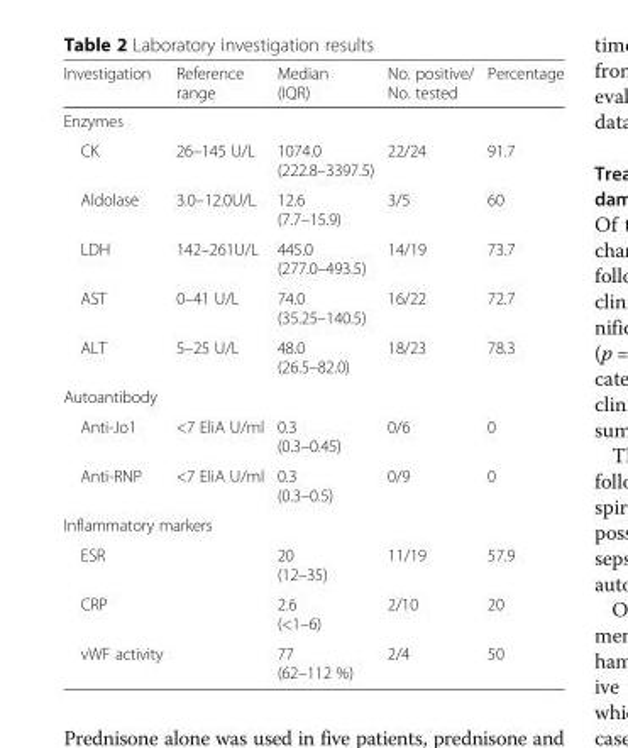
<table><thead><tr><td>Investigation</td><td>Reference range</td><td>Median (IQR)</td><td>No. positive/ No. tested</td><td>Percentage</td></tr></thead><tbody><tr><td colspan="5">Enzymes</td></tr><tr><td>CK</td><td>26–145 U/L</td><td>1074.0 (222.8–3397.5)</td><td>22/24</td><td>91.7</td></tr><tr><td>Aldolase</td><td>3.0–12.0U/L</td><td>12.6 (7.7–15.9)</td><td>3/5</td><td>60</td></tr><tr><td>LDH</td><td>142–261U/L</td><td>445.0 (277.0–493.5)</td><td>14/19</td><td>73.7</td></tr><tr><td>AST</td><td>0–41 U/L</td><td>74.0 (35.25–140.5)</td><td>16/22</td><td>72.7</td></tr><tr><td>ALT</td><td>5–25 U/L</td><td>48.0 (26.5–82.0)</td><td>18/23</td><td>78.3</td></tr><tr><td colspan="5">Autoantibody</td></tr><tr><td>Anti-Jo1</td><td>&lt;7 EliA U/ml</td><td>0.3 (0.3–0.45)</td><td>0/6</td><td>0</td></tr><tr><td>Anti-RNP</td><td>&lt;7 EliA U/ml</td><td>0.3 (0.3–0.5)</td><td>0/9</td><td>0</td></tr><tr><td colspan="5">Inflammatory markers</td></tr><tr><td>ESR</td><td></td><td>20 (12–35)</td><td>11/19</td><td>57.9</td></tr><tr><td>CRP</td><td></td><td>2.6 (&lt;1–6)</td><td>2/10</td><td>20</td></tr><tr><td>vWF activity</td><td></td><td>77 (62–112 %)</td><td>2/4</td><td>50</td></tr></tbody></table>